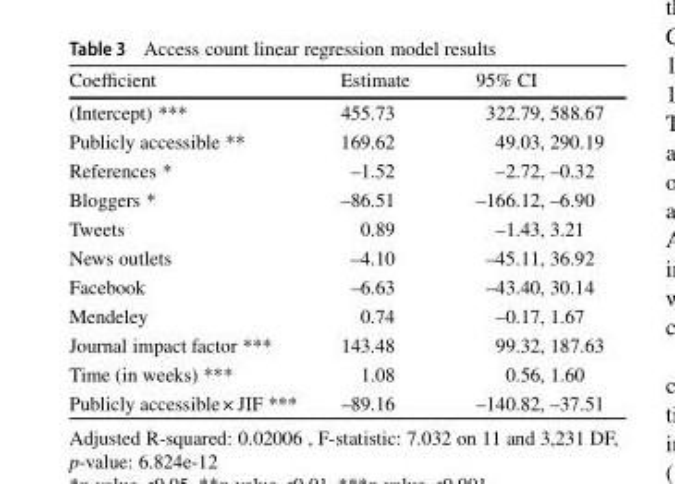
<table><thead><tr><td>Coefficient</td><td>Estimate</td><td>95% CI</td></tr></thead><tbody><tr><td>(Intercept) ***</td><td>455.73</td><td>322.79, 588.67</td></tr><tr><td>Publicly accessible **</td><td>169.62</td><td>49.03, 290.19</td></tr><tr><td>References *</td><td>–1.52</td><td>–2.72, –0.32</td></tr><tr><td>Bloggers *</td><td>–86.51</td><td>–166.12, –6.90</td></tr><tr><td>Tweets</td><td>0.89</td><td>–1.43, 3.21</td></tr><tr><td>News outlets</td><td>–4.10</td><td>–45.11, 36.92</td></tr><tr><td>Facebook</td><td>–6.63</td><td>–43.40, 30.14</td></tr><tr><td>Mendeley</td><td>0.74</td><td>–0.17, 1.67</td></tr><tr><td>Journal impact factor ***</td><td>143.48</td><td>99.32, 187.63</td></tr><tr><td>Time (in weeks) ***</td><td>1.08</td><td>0.56, 1.60</td></tr><tr><td>Publicly accessible× JIF ***</td><td>–89.16</td><td>–140.82, –37.51</td></tr></tbody></table>